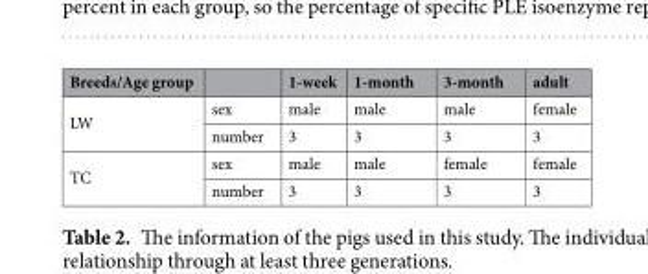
<table><thead><tr><td>Breeds/Age group</td><td></td><td>1-week</td><td>1-month</td><td>3-month</td><td>adult</td></tr></thead><tbody><tr><td rowspan="2">LW</td><td>sex</td><td>male</td><td>male</td><td>male</td><td>female</td></tr><tr><td>number</td><td>3</td><td>3</td><td>3</td><td>3</td></tr><tr><td rowspan="2">TC</td><td>sex</td><td>male</td><td>male</td><td>female</td><td>female</td></tr><tr><td>number</td><td>3</td><td>3</td><td>3</td><td>3</td></tr></tbody></table>